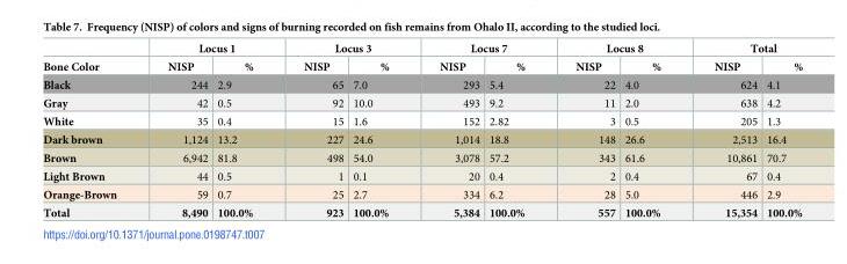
<table><thead><tr><td rowspan="2">Bone Color</td><td colspan="2">Locus 1</td><td colspan="2">Locus 3</td><td colspan="2">Locus 7</td><td colspan="2">Locus 8</td><td colspan="2">Total</td></tr><tr><td>NISP</td><td>%</td><td>NISP</td><td>%</td><td>NISP</td><td>%</td><td>NISP</td><td>%</td><td>NISP</td><td>%</td></tr></thead><tbody><tr><td>Black</td><td>244</td><td>2.9</td><td>65</td><td>7.0</td><td>293</td><td>5.4</td><td>22</td><td>4.0</td><td>624</td><td>4.1</td></tr><tr><td>Gray</td><td>42</td><td>0.5</td><td>92</td><td>10.0</td><td>493</td><td>9.2</td><td>11</td><td>2.0</td><td>638</td><td>4.2</td></tr><tr><td>White</td><td>35</td><td>0.4</td><td>15</td><td>1.6</td><td>152</td><td>2.82</td><td>3</td><td>0.5</td><td>205</td><td>1.3</td></tr><tr><td>Dark brown</td><td>1,124</td><td>13.2</td><td>227</td><td>24.6</td><td>1,014</td><td>18.8</td><td>148</td><td>26.6</td><td>2,513</td><td>16.4</td></tr><tr><td>Brown</td><td>6,942</td><td>81.8</td><td>498</td><td>54.0</td><td>3,078</td><td>57.2</td><td>343</td><td>61.6</td><td>10,861</td><td>70.7</td></tr><tr><td>Light Brown</td><td>44</td><td>0.5</td><td>1</td><td>0.1</td><td>20</td><td>0.4</td><td>2</td><td>0.4</td><td>67</td><td>0.4</td></tr><tr><td>Orange-Brown</td><td>59</td><td>0.7</td><td>25</td><td>2.7</td><td>334</td><td>6.2</td><td>28</td><td>5.0</td><td>446</td><td>2.9</td></tr><tr><td>Total</td><td>8,490</td><td>100.0%</td><td>923</td><td>100.0%</td><td>5,384</td><td>100.0%</td><td>557</td><td>100.0%</td><td>15,354</td><td>100.0%</td></tr></tbody></table>